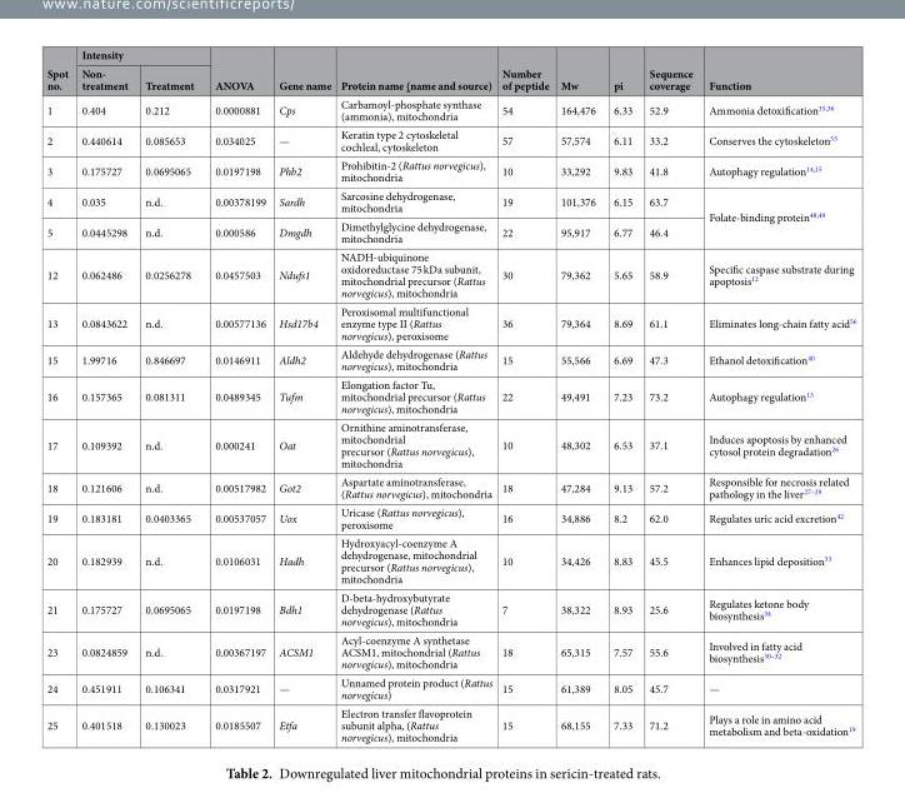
<table><thead><tr><td rowspan="2">Spot no.</td><td colspan="2">Intensity</td><td rowspan="2">ANOVA</td><td rowspan="2">Gene name</td><td rowspan="2">Protein name (name and source)</td><td rowspan="2">Number of peptide</td><td rowspan="2">Mw</td><td rowspan="2">pi</td><td rowspan="2">Sequence coverage</td><td rowspan="2">Function</td></tr><tr><td>Non- treatment</td><td>Treatment</td></tr></thead><tbody><tr><td>1</td><td>0.404</td><td>0.212</td><td>0.0000881</td><td>Cps</td><td>Carbamoyl-phosphate synthase (ammonia), mitochondria</td><td>54</td><td>164,476</td><td>6.33</td><td>52.9</td><td>Ammonia detoxification<sup>35,36</sup></td></tr><tr><td>2</td><td>0.440614</td><td>0.085653</td><td>0.034025</td><td>—</td><td>Keratin type 2 cytoskeletal cochleal, cytoskeleton</td><td>57</td><td>57,574</td><td>6.11</td><td>33.2</td><td>Conserves the cytoskeleton<sup>55</sup></td></tr><tr><td>3</td><td>0.175727</td><td>0.0695065</td><td>0.0197198</td><td>Phb2</td><td>Prohibitin-2 (Rattus norvegicus), mitochondria</td><td>10</td><td>33,292</td><td>9.83</td><td>41.8</td><td>Autophagy regulation<sup>14,15</sup></td></tr><tr><td>4</td><td>0.035</td><td>n.d.</td><td>0.00378199</td><td>Sardh</td><td>Sarcosine dehydrogenase, mitochondria</td><td>19</td><td>101,376</td><td>6.15</td><td>63.7</td><td rowspan="2">Folate-binding protein<sup>48,49</sup></td></tr><tr><td>5</td><td>0.0445298</td><td>n.d.</td><td>0.000586</td><td>Dmgdh</td><td>Dimethylglycine dehydrogenase, mitochondria</td><td>22</td><td>95,917</td><td>6.77</td><td>46.4</td></tr><tr><td>12</td><td>0.062486</td><td>0.0256278</td><td>0.0457503</td><td>Ndufs1</td><td>NADH-ubiquinone oxidoreductase 75 kDa subunit, mitochondrial precursor (Rattus norvegicus), mitochondria</td><td>30</td><td>79,362</td><td>5.65</td><td>58.9</td><td>Specific caspase substrate during apoptosis<sup>12</sup></td></tr><tr><td>13</td><td>0.0843622</td><td>n.d.</td><td>0.00577136</td><td>Hsd17b4</td><td>Peroxisomal multifunctional enzyme type II (Rattus norvegicus), peroxisome</td><td>36</td><td>79,364</td><td>8.69</td><td>61.1</td><td>Eliminates long-chain fatty acid<sup>56</sup></td></tr><tr><td>15</td><td>1.99716</td><td>0.846697</td><td>0.0146911</td><td>Aldh2</td><td>Aldehyde dehydrogenase (Rattus norvegicus), mitochondria</td><td>15</td><td>55,566</td><td>6.69</td><td>47.3</td><td>Ethanol detoxification<sup>40</sup></td></tr><tr><td>16</td><td>0.157365</td><td>0.081311</td><td>0.0489345</td><td>Tufm</td><td>Elongation factor Tu, mitochondrial precursor (Rattus norvegicus), mitochondria</td><td>22</td><td>49,491</td><td>7.23</td><td>73.2</td><td>Autophagy regulation<sup>13</sup></td></tr><tr><td>17</td><td>0.109392</td><td>n.d.</td><td>0.000241</td><td>Oat</td><td>Ornithine aminotransferase, mitochondrial precursor (Rattus norvegicus), mitochondria</td><td>10</td><td>48,302</td><td>6.53</td><td>37.1</td><td>Induces apoptosis by enhanced cytosol protein degradation<sup>26</sup></td></tr><tr><td>18</td><td>0.121606</td><td>n.d.</td><td>0.00517982</td><td>Got2</td><td>Aspartate aminotransferase, (Rattus norvegicus), mitochondria</td><td>18</td><td>47,284</td><td>9.13</td><td>57.2</td><td>Responsible for necrosis related pathology in the liver<sup>27–29</sup></td></tr><tr><td>19</td><td>0.183181</td><td>0.0403365</td><td>0.00537057</td><td>Uox</td><td>Uricase (Rattus norvegicus), peroxisome</td><td>16</td><td>34,886</td><td>8.2</td><td>62.0</td><td>Regulates uric acid excretion<sup>42</sup></td></tr><tr><td>20</td><td>0.182939</td><td>n.d.</td><td>0.0106031</td><td>Hadh</td><td>Hydroxyacyl-coenzyme A dehydrogenase, mitochondrial precursor (Rattus norvegicus), mitochondria</td><td>10</td><td>34,426</td><td>8.83</td><td>45.5</td><td>Enhances lipid deposition<sup>33</sup></td></tr><tr><td>21</td><td>0.175727</td><td>0.0695065</td><td>0.0197198</td><td>Bdh1</td><td>D-beta-hydroxybutyrate dehydrogenase (Rattus norvegicus), mitochondria</td><td>7</td><td>38,322</td><td>8.93</td><td>25.6</td><td>Regulates ketone body biosynthesis<sup>34</sup></td></tr><tr><td>23</td><td>0.0824859</td><td>n.d.</td><td>0.00367197</td><td>ACSM1</td><td>Acyl-coenzyme A synthetase ACSM1, mitochondrial (Rattus norvegicus), mitochondria</td><td>18</td><td>65,315</td><td>7.57</td><td>55.6</td><td>Involved in fatty acid biosynthesis<sup>30–32</sup></td></tr><tr><td>24</td><td>0.451911</td><td>0.106341</td><td>0.0317921</td><td>—</td><td>Unnamed protein product (Rattus norvegicus)</td><td>15</td><td>61,389</td><td>8.05</td><td>45.7</td><td>—</td></tr><tr><td>25</td><td>0.401518</td><td>0.130023</td><td>0.0185507</td><td>Etfa</td><td>Electron transfer flavoprotein subunit alpha, (Rattus norvegicus), mitochondria</td><td>15</td><td>68,155</td><td>7.33</td><td>71.2</td><td>Plays a role in amino acid metabolism and beta-oxidation<sup>19</sup></td></tr></tbody></table>